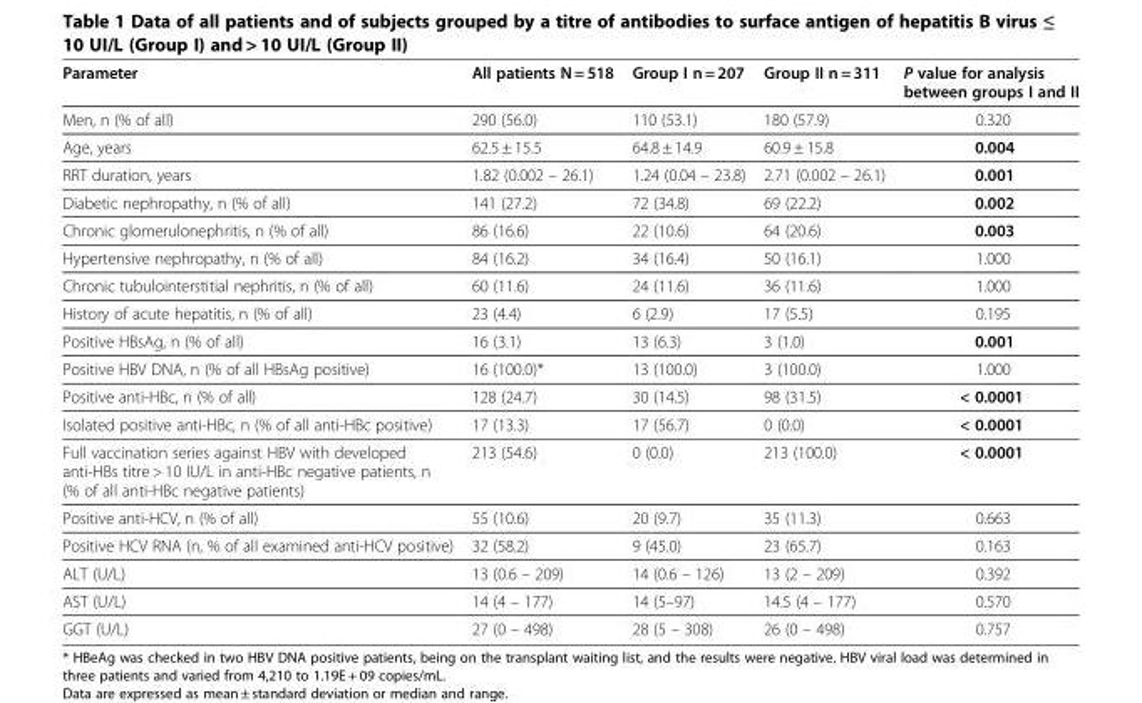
<table><thead><tr><td>Parameter</td><td>All patients N = 518</td><td>Group I n = 207</td><td>Group II n = 311</td><td>P value for analysis between groups I and II</td></tr></thead><tbody><tr><td>Men, n (% of all)</td><td>290 (56.0)</td><td>110 (53.1)</td><td>180 (57.9)</td><td>0.320</td></tr><tr><td>Age, years</td><td>62.5 ± 15.5</td><td>64.8 ± 14.9</td><td>60.9 ± 15.8</td><td>0.004</td></tr><tr><td>RRT duration, years</td><td>1.82 (0.002 – 26.1)</td><td>1.24 (0.04 – 23.8)</td><td>2.71 (0.002 – 26.1)</td><td>0.001</td></tr><tr><td>Diabetic nephropathy, n (% of all)</td><td>141 (27.2)</td><td>72 (34.8)</td><td>69 (22.2)</td><td>0.002</td></tr><tr><td>Chronic glomerulonephritis, n (% of all)</td><td>86 (16.6)</td><td>22 (10.6)</td><td>64 (20.6)</td><td>0.003</td></tr><tr><td>Hypertensive nephropathy, n (% of all)</td><td>84 (16.2)</td><td>34 (16.4)</td><td>50 (16.1)</td><td>1.000</td></tr><tr><td>Chronic tubulointerstitial nephritis, n (% of all)</td><td>60 (11.6)</td><td>24 (11.6)</td><td>36 (11.6)</td><td>1.000</td></tr><tr><td>History of acute hepatitis, n (% of all)</td><td>23 (4.4)</td><td>6 (2.9)</td><td>17 (5.5)</td><td>0.195</td></tr><tr><td>Positive HBsAg, n (% of all)</td><td>16 (3.1)</td><td>13 (6.3)</td><td>3 (1.0)</td><td>0.001</td></tr><tr><td>Positive HBV DNA, n (% of all HBsAg positive)</td><td>16 (100.0)*</td><td>13 (100.0)</td><td>3 (100.0)</td><td>1.000</td></tr><tr><td>Positive anti-HBc, n (% of all)</td><td>128 (24.7)</td><td>30 (14.5)</td><td>98 (31.5)</td><td>&lt; 0.0001</td></tr><tr><td>Isolated positive anti-HBc, n (% of all anti-HBc positive)</td><td>17 (13.3)</td><td>17 (56.7)</td><td>0 (0.0)</td><td>&lt; 0.0001</td></tr><tr><td>Full vaccination series against HBV with developed anti-HBs titre &gt; 10 IU/L in anti-HBc negative patients, n (% of all anti-HBc negative patients)</td><td>213 (54.6)</td><td>0 (0.0)</td><td>213 (100.0)</td><td>&lt; 0.0001</td></tr><tr><td>Positive anti-HCV, n (% of all)</td><td>55 (10.6)</td><td>20 (9.7)</td><td>35 (11.3)</td><td>0.663</td></tr><tr><td>Positive HCV RNA (n, % of all examined anti-HCV positive)</td><td>32 (58.2)</td><td>9 (45.0)</td><td>23 (65.7)</td><td>0.163</td></tr><tr><td>ALT (U/L)</td><td>13 (0.6 – 209)</td><td>14 (0.6 – 126)</td><td>13 (2 – 209)</td><td>0.392</td></tr><tr><td>AST (U/L)</td><td>14 (4 – 177)</td><td>14 (5–97)</td><td>14.5 (4 – 177)</td><td>0.570</td></tr><tr><td>GGT (U/L)</td><td>27 (0 – 498)</td><td>28 (5 – 308)</td><td>26 (0 – 498)</td><td>0.757</td></tr></tbody></table>